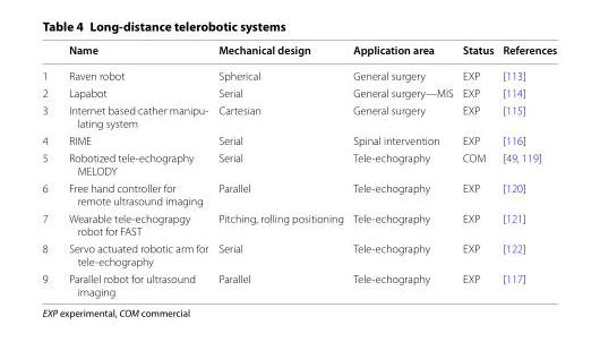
<table><thead><tr><td></td><td>Name</td><td>Mechanical design</td><td>Application area</td><td>Status</td><td>References</td></tr></thead><tbody><tr><td>1</td><td>Raven robot</td><td>Spherical</td><td>General surgery</td><td>EXP</td><td>[113]</td></tr><tr><td>2</td><td>Lapabot</td><td>Serial</td><td>General surgery—MIS</td><td>EXP</td><td>[114]</td></tr><tr><td>3</td><td>Internet based cather manipu- lating system</td><td>Cartesian</td><td>General surgery</td><td>EXP</td><td>[115]</td></tr><tr><td>4</td><td>RIME</td><td>Serial</td><td>Spinal intervention</td><td>EXP</td><td>[116]</td></tr><tr><td>5</td><td>Robotized tele-echography MELODY</td><td>Serial</td><td>Tele-echography</td><td>COM</td><td>[49, 119]</td></tr><tr><td>6</td><td>Free hand controller for remote ultrasound imaging</td><td>Parallel</td><td>Tele-echography</td><td>EXP</td><td>[120]</td></tr><tr><td>7</td><td>Wearable tele-echograpgy robot for FAST</td><td>Pitching, rolling positioning</td><td>Tele-echography</td><td>EXP</td><td>[121]</td></tr><tr><td>8</td><td>Servo actuated robotic arm for tele-echography</td><td>Serial</td><td>Tele-echography</td><td>EXP</td><td>[122]</td></tr><tr><td>9</td><td>Parallel robot for ultrasound imaging</td><td>Parallel</td><td>Tele-echography</td><td>EXP</td><td>[117]</td></tr></tbody></table>